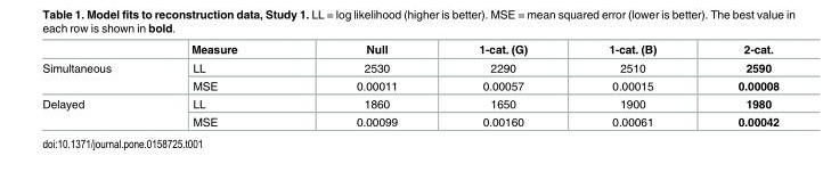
<table><thead><tr><td></td><td>Measure</td><td>Null</td><td>1-cat. (G)</td><td>1-cat. (B)</td><td>2-cat.</td></tr></thead><tbody><tr><td rowspan="2">Simultaneous</td><td>LL</td><td>2530</td><td>2290</td><td>2510</td><td>2590</td></tr><tr><td>MSE</td><td>0.00011</td><td>0.00057</td><td>0.00015</td><td>0.00008</td></tr><tr><td rowspan="2">Delayed</td><td>LL</td><td>1860</td><td>1650</td><td>1900</td><td>1980</td></tr><tr><td>MSE</td><td>0.00099</td><td>0.00160</td><td>0.00061</td><td>0.00042</td></tr></tbody></table>